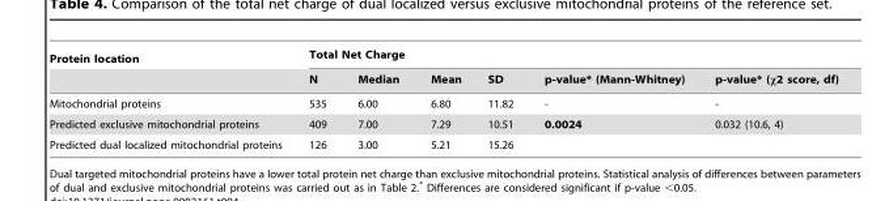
<table><thead><tr><td rowspan="2">Protein location</td><td colspan="6">Total Net Charge</td></tr><tr><td>N</td><td>Median</td><td>Mean</td><td>SD</td><td>p-value* (Mann-Whitney)</td><td>p-value* (χ2 score, df)</td></tr></thead><tbody><tr><td>Mitochondrial proteins</td><td>535</td><td>6.00</td><td>6.80</td><td>11.82</td><td>-</td><td>-</td></tr><tr><td>Predicted exclusive mitochondrial proteins</td><td>409</td><td>7.00</td><td>7.29</td><td>10.51</td><td>0.0024</td><td>0.032 (10.6, 4)</td></tr><tr><td>Predicted dual localized mitochondrial proteins</td><td>126</td><td>3.00</td><td>5.21</td><td>15.26</td><td></td><td></td></tr></tbody></table>